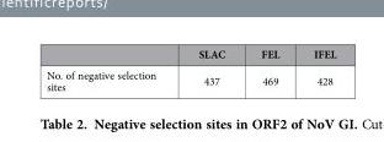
<table><thead><tr><td></td><td>SLAC</td><td>FEL</td><td>IFEL</td></tr></thead><tbody><tr><td>No. of negative selection sites</td><td>437</td><td>469</td><td>428</td></tr></tbody></table>